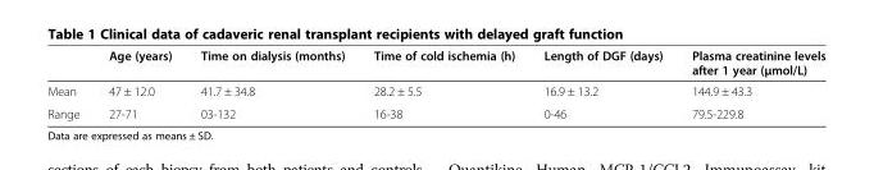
<table><thead><tr><td></td><td>Age (years)</td><td>Time on dialysis (months)</td><td>Time of cold ischemia (h)</td><td>Length of DGF (days)</td><td>Plasma creatinine levels after 1 year (μmol/L)</td></tr></thead><tbody><tr><td>Mean</td><td>47 ± 12.0</td><td>41.7 ± 34.8</td><td>28.2 ± 5.5</td><td>16.9 ± 13.2</td><td>144.9 ± 43.3</td></tr><tr><td>Range</td><td>27-71</td><td>03-132</td><td>16-38</td><td>0-46</td><td>79.5-229.8</td></tr></tbody></table>